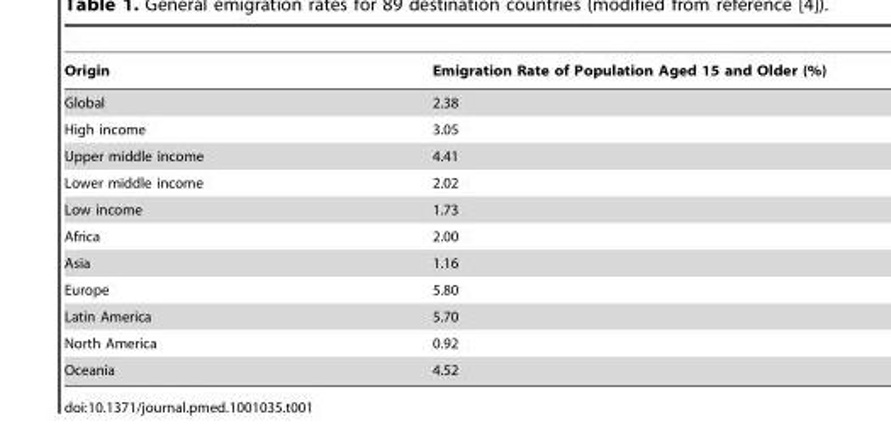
<table><thead><tr><td>Origin</td><td>Emigration Rate of Population Aged 15 and Older (%)</td></tr></thead><tbody><tr><td>Global</td><td>2.38</td></tr><tr><td>High income</td><td>3.05</td></tr><tr><td>Upper middle income</td><td>4.41</td></tr><tr><td>Lower middle income</td><td>2.02</td></tr><tr><td>Low income</td><td>1.73</td></tr><tr><td>Africa</td><td>2.00</td></tr><tr><td>Asia</td><td>1.16</td></tr><tr><td>Europe</td><td>5.80</td></tr><tr><td>Latin America</td><td>5.70</td></tr><tr><td>North America</td><td>0.92</td></tr><tr><td>Oceania</td><td>4.52</td></tr></tbody></table>